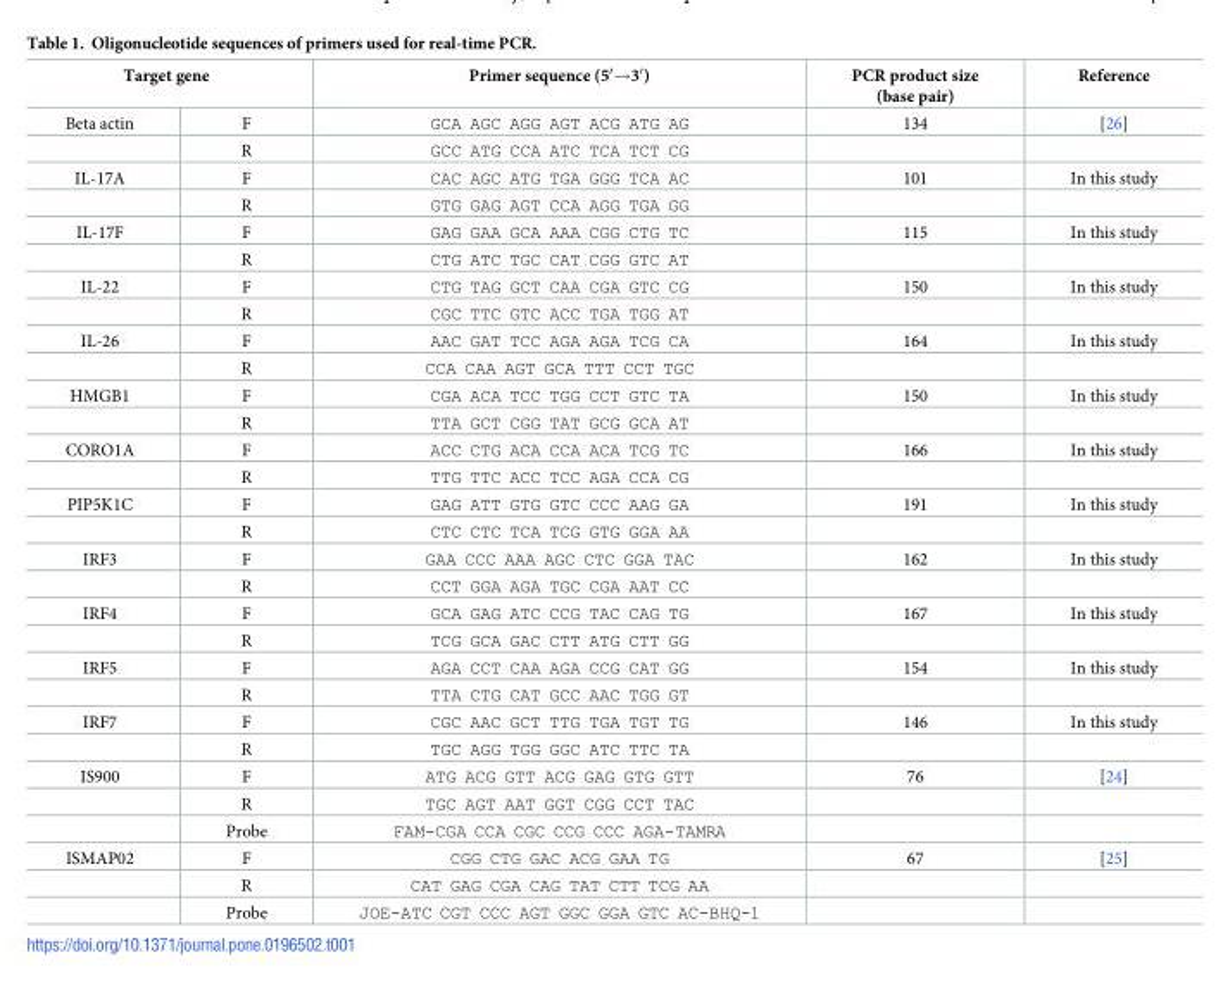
<table><thead><tr><td colspan="2">Target gene</td><td rowspan="2">Primer sequence (5′→3′) GCA AGC AGG AGT ACG ATG AG</td><td rowspan="2">PCR product size (base pair) 134</td><td rowspan="2">Reference [26]</td></tr><tr><td>Beta actin</td><td>F</td></tr></thead><tbody><tr><td></td><td>R</td><td>GCC ATG CCA ATC TCA TCT CG</td><td></td><td></td></tr><tr><td rowspan="2">IL-17A</td><td>F</td><td>CAC AGC ATG TGA GGG TCA AC</td><td>101</td><td>In this study</td></tr><tr><td>R</td><td>GTG GAG AGT CCA AGG TGA GG</td><td></td><td></td></tr><tr><td rowspan="2">IL-17F</td><td>F</td><td>GAG GAA GCA AAA CGG CTG TC</td><td>115</td><td>In this study</td></tr><tr><td>R</td><td>CTG ATC TGC CAT CGG GTC AT</td><td></td><td></td></tr><tr><td rowspan="2">IL-22</td><td>F</td><td>CTG TAG GCT CAA CGA GTC CG</td><td>150</td><td>In this study</td></tr><tr><td>R</td><td>CGC TTC GTC ACC TGA TGG AT</td><td></td><td></td></tr><tr><td rowspan="2">IL-26</td><td>F</td><td>AAC GAT TCC AGA AGA TCG CA</td><td>164</td><td>In this study</td></tr><tr><td>R</td><td>CCA CAA AGT GCA TTT CCT TGC</td><td></td><td></td></tr><tr><td rowspan="2">HMGB1</td><td>F</td><td>CGA ACA TCC TGG CCT GTC TA</td><td>150</td><td>In this study</td></tr><tr><td>R</td><td>TTA GCT CGG TAT GCG GCA AT</td><td></td><td></td></tr><tr><td rowspan="2">CORO1A</td><td>F</td><td>ACC CTG ACA CCA ACA TCG TC</td><td>166</td><td>In this study</td></tr><tr><td>R</td><td>TTG TTC ACC TCC AGA CCA CG</td><td></td><td></td></tr><tr><td rowspan="2">PIP5K1C</td><td>F</td><td>GAG ATT GTG GTC CCC AAG GA</td><td>191</td><td>In this study</td></tr><tr><td>R</td><td>CTC CTC TCA TCG GTG GGA AA</td><td></td><td></td></tr><tr><td rowspan="2">IRF3</td><td>F</td><td>GAA CCC AAA AGC CTC GGA TAC</td><td>162</td><td>In this study</td></tr><tr><td>R</td><td>CCT GGA AGA TGC CGA AAT CC</td><td></td><td></td></tr><tr><td rowspan="2">IRF4</td><td>F</td><td>GCA GAG ATC CCG TAC CAG TG</td><td>167</td><td>In this study</td></tr><tr><td>R</td><td>TCG GCA GAC CTT ATG CTT GG</td><td></td><td></td></tr><tr><td rowspan="2">IRF5</td><td>F</td><td>AGA CCT CAA AGA CCG CAT GG</td><td>154</td><td>In this study</td></tr><tr><td>R</td><td>TTA CTG CAT GCC AAC TGG GT</td><td></td><td></td></tr><tr><td rowspan="2">IRF7</td><td>F</td><td>CGC AAC GCT TTG TGA TGT TG</td><td>146</td><td>In this study</td></tr><tr><td>R</td><td>TGC AGG TGG GGC ATC TTC TA</td><td></td><td></td></tr><tr><td rowspan="3">IS900</td><td>F</td><td>ATG ACG GTT ACG GAG GTG GTT</td><td>76</td><td>[24]</td></tr><tr><td>R</td><td>TGC AGT AAT GGT CGG CCT TAC</td><td></td><td></td></tr><tr><td>Probe</td><td>FAM-CGA CCA CGC CCG CCC AGA-TAMRA</td><td></td><td></td></tr><tr><td rowspan="3">ISMAP02</td><td>F</td><td>CGG CTG GAC ACG GAA TG</td><td>67</td><td>[25]</td></tr><tr><td>R</td><td>CAT GAG CGA CAG TAT CTT TCG AA</td><td></td><td></td></tr><tr><td>Probe</td><td>JOE-ATC CGT CCC AGT GGC GGA GTC AC-BHQ-1</td><td></td><td></td></tr></tbody></table>